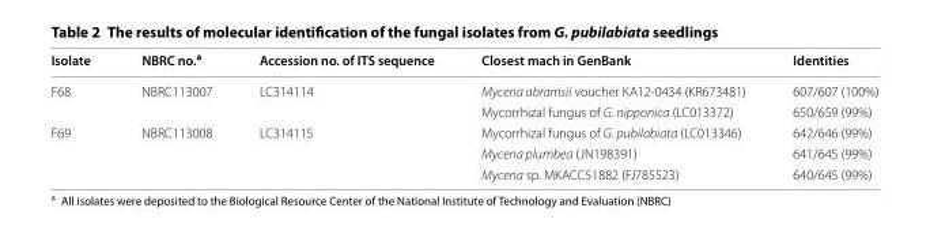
<table><thead><tr><td>Isolate</td><td>NBRC no.<sup>a</sup></td><td>Accession no. of ITS sequence</td><td>Closest mach in GenBank</td><td>Identities</td></tr></thead><tbody><tr><td rowspan="2">F68</td><td>NBRC113007</td><td>LC314114</td><td>Mycena abramsii voucher KA12‑0434 (KR673481)</td><td>607/607 (100%)</td></tr><tr><td></td><td></td><td>Mycorrhizal fungus of G. nipponica (LC013372)</td><td>650/659 (99%)</td></tr><tr><td rowspan="3">F69</td><td>NBRC113008</td><td>LC314115</td><td>Mycorrhizal fungus of G. pubilabiata (LC013346)</td><td>642/646 (99%)</td></tr><tr><td></td><td></td><td>Mycena plumbea (JN198391)</td><td>641/645 (99%)</td></tr><tr><td></td><td></td><td>Mycena sp. MKACC51882 (FJ785523)</td><td>640/645 (99%)</td></tr></tbody></table>